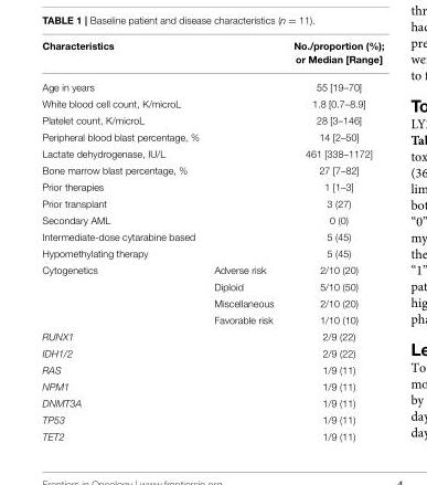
<table><thead><tr><td>Characteristics</td><td></td><td>No./proportion (%); or Median [Range]</td></tr></thead><tbody><tr><td>Age in years</td><td></td><td>55 [19–70]</td></tr><tr><td>White blood cell count, K/microL</td><td></td><td>1.8 [0.7–8.9]</td></tr><tr><td>Platelet count, K/microL</td><td></td><td>28 [3–146]</td></tr><tr><td>Peripheral blood blast percentage, %</td><td></td><td>14 [2–50]</td></tr><tr><td>Lactate dehydrogenase, IU/L</td><td></td><td>461 [338–1172]</td></tr><tr><td>Bone marrow blast percentage, %</td><td></td><td>27 [7–82]</td></tr><tr><td>Prior therapies</td><td></td><td>1 [1–3]</td></tr><tr><td>Prior transplant</td><td></td><td>3 (27)</td></tr><tr><td>Secondary AML</td><td></td><td>0 (0)</td></tr><tr><td>Intermediate-dose cytarabine based</td><td></td><td>5 (45)</td></tr><tr><td>Hypomethylating therapy</td><td></td><td>5 (45)</td></tr><tr><td rowspan="4">Cytogenetics</td><td>Adverse risk</td><td>2/10 (20)</td></tr><tr><td>Diploid</td><td>5/10 (50)</td></tr><tr><td>Miscellaneous</td><td>2/10 (20)</td></tr><tr><td>Favorable risk</td><td>1/10 (10)</td></tr><tr><td>RUNX1</td><td></td><td>2/9 (22)</td></tr><tr><td>IDH1/2</td><td></td><td>2/9 (22)</td></tr><tr><td>RAS</td><td></td><td>1/9 (11)</td></tr><tr><td>NPM1</td><td></td><td>1/9 (11)</td></tr><tr><td>DNMT3A</td><td></td><td>1/9 (11)</td></tr><tr><td>TP53</td><td></td><td>1/9 (11)</td></tr><tr><td>TET2</td><td></td><td>1/9 (11)</td></tr></tbody></table>